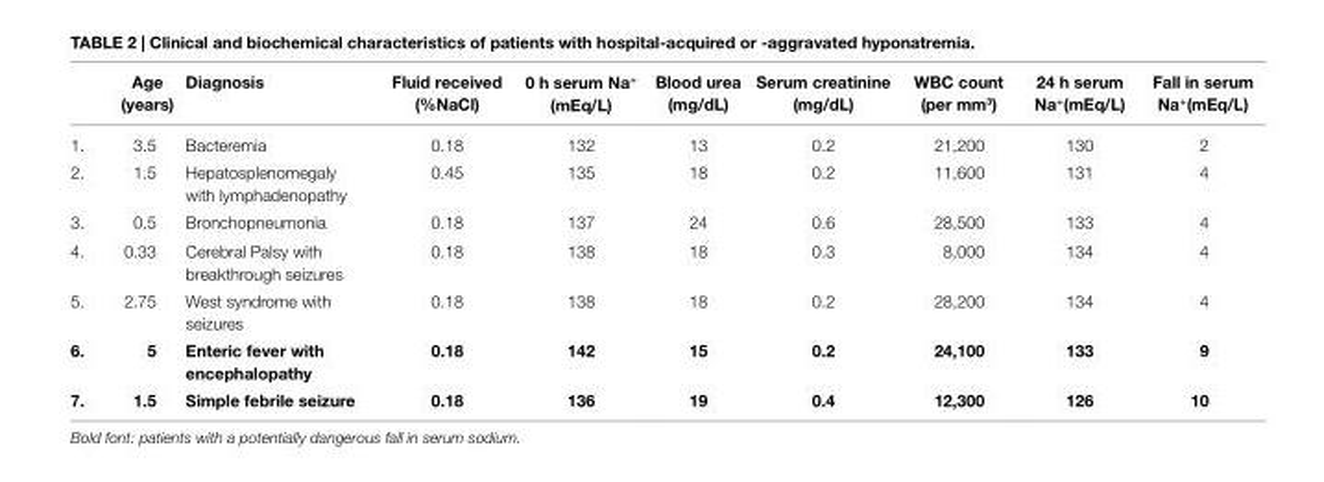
<table><thead><tr><td></td><td>age (years)</td><td>Diagnosis</td><td>Fluid received (%nacl)</td><td>0 h serum na<sup>+</sup> (meq/l)</td><td>blood urea (mg/dl)</td><td>serum creatinine (mg/dl)</td><td>Wbc count (per mm<sup>3</sup>)</td><td>24 h serum na<sup>+</sup>(meq/l)</td><td>Fall in serum na<sup>+</sup>(meq/l)</td></tr></thead><tbody><tr><td>1.</td><td>3.5</td><td>Bacteremia</td><td>0.18</td><td>132</td><td>13</td><td>0.2</td><td>21,200</td><td>130</td><td>2</td></tr><tr><td>2.</td><td>1.5</td><td>Hepatosplenomegaly with lymphadenopathy</td><td>0.45</td><td>135</td><td>18</td><td>0.2</td><td>11,600</td><td>131</td><td>4</td></tr><tr><td>3.</td><td>0.5</td><td>Bronchopneumonia</td><td>0.18</td><td>137</td><td>24</td><td>0.6</td><td>28,500</td><td>133</td><td>4</td></tr><tr><td>4.</td><td>0.33</td><td>Cerebral Palsy with breakthrough seizures</td><td>0.18</td><td>138</td><td>18</td><td>0.3</td><td>8,000</td><td>134</td><td>4</td></tr><tr><td>5.</td><td>2.75</td><td>West syndrome with seizures</td><td>0.18</td><td>138</td><td>18</td><td>0.2</td><td>28,200</td><td>134</td><td>4</td></tr><tr><td>6.</td><td>5</td><td>enteric fever with encephalopathy</td><td>0.18</td><td>142</td><td>15</td><td>0.2</td><td>24,100</td><td>133</td><td>9</td></tr><tr><td>7.</td><td>1.5</td><td>simple febrile seizure</td><td>0.18</td><td>136</td><td>19</td><td>0.4</td><td>12,300</td><td>126</td><td>10</td></tr></tbody></table>